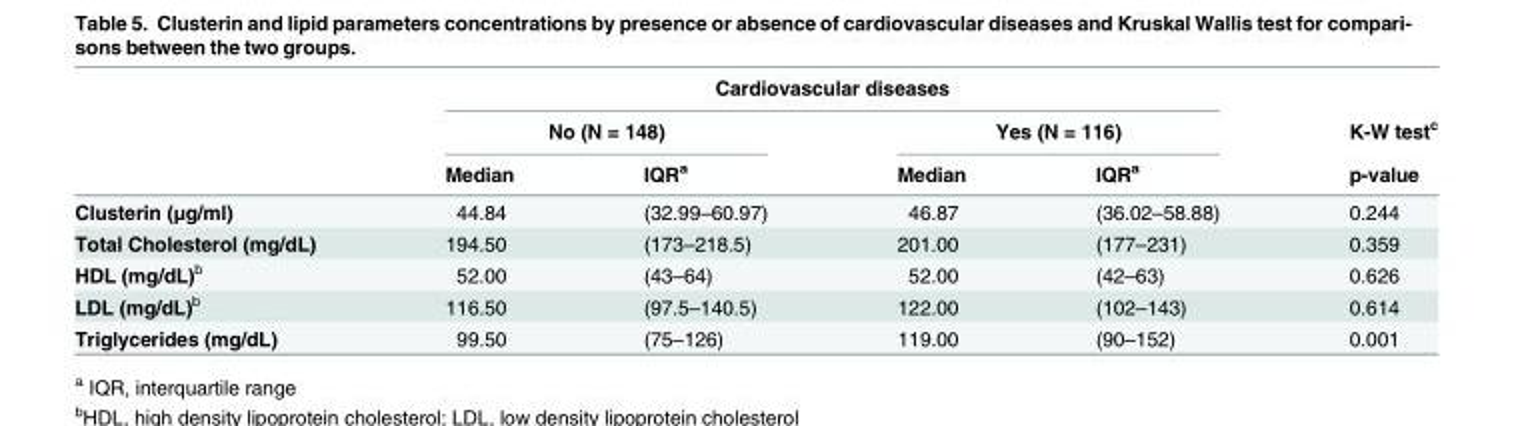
<table><thead><tr><td rowspan="3"></td><td colspan="4">Cardiovascular diseases</td><td rowspan="3">K-W test<sup>c</sup> p-value</td></tr><tr><td colspan="2">No (N = 148)</td><td colspan="2">Yes (N = 116)</td></tr><tr><td>Median</td><td>IQR<sup>a</sup></td><td>Median</td><td>IQR<sup>a</sup></td></tr></thead><tbody><tr><td>Clusterin (μg/ml)</td><td>44.84</td><td>(32.99–60.97)</td><td>46.87</td><td>(36.02–58.88)</td><td>0.244</td></tr><tr><td>Total Cholesterol (mg/dL)</td><td>194.50</td><td>(173–218.5)</td><td>201.00</td><td>(177–231)</td><td>0.359</td></tr><tr><td>HDL (mg/dL)<sup>b</sup></td><td>52.00</td><td>(43–64)</td><td>52.00</td><td>(42–63)</td><td>0.626</td></tr><tr><td>LDL (mg/dL)<sup>b</sup></td><td>116.50</td><td>(97.5–140.5)</td><td>122.00</td><td>(102–143)</td><td>0.614</td></tr><tr><td>Triglycerides (mg/dL)</td><td>99.50</td><td>(75–126)</td><td>119.00</td><td>(90–152)</td><td>0.001</td></tr></tbody></table>